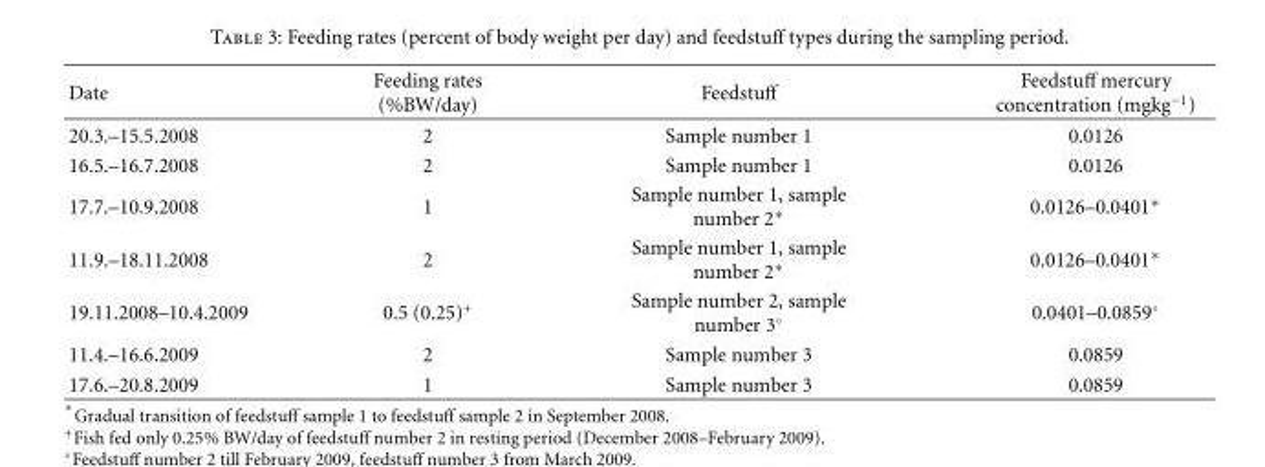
<table><thead><tr><td>Date</td><td>Feeding rates (%BW/day)</td><td>Feedstuff</td><td>Feedstuff mercury concentration (mgkg<sup>−1</sup>)</td></tr></thead><tbody><tr><td>20.3.–15.5.2008</td><td>2</td><td>Sample number 1</td><td>0.0126</td></tr><tr><td>16.5.–16.7.2008</td><td>2</td><td>Sample number 1</td><td>0.0126</td></tr><tr><td>17.7.–10.9.2008</td><td>1</td><td>Sample number 1, sample number 2∗</td><td>0.0126–0.0401∗</td></tr><tr><td>11.9.–18.11.2008</td><td>2</td><td>Sample number 1, sample number 2∗</td><td>0.0126–0.0401∗</td></tr><tr><td>19.11.2008–10.4.2009</td><td>0.5 (0.25)<sup>+</sup></td><td>Sample number 2, sample number 3◦</td><td>0.0401–0.0859◦</td></tr><tr><td>11.4.–16.6.2009</td><td>2</td><td>Sample number 3</td><td>0.0859</td></tr><tr><td>17.6.–20.8.2009</td><td>1</td><td>Sample number 3</td><td>0.0859</td></tr></tbody></table>